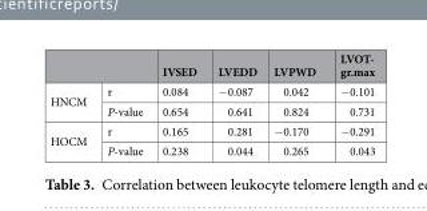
<table><thead><tr><td></td><td></td><td>IVSED</td><td>LVEDD</td><td>LVPWD</td><td>LVOT- gr.max</td></tr></thead><tbody><tr><td rowspan="2">HNCM</td><td>r</td><td>0.084</td><td>−0.087</td><td>0.042</td><td>−0.101</td></tr><tr><td>P-value</td><td>0.654</td><td>0.641</td><td>0.824</td><td>0.731</td></tr><tr><td rowspan="2">HOCM</td><td>r</td><td>0.165</td><td>0.281</td><td>−0.170</td><td>−0.291</td></tr><tr><td>P-value</td><td>0.238</td><td>0.044</td><td>0.265</td><td>0.043</td></tr></tbody></table>